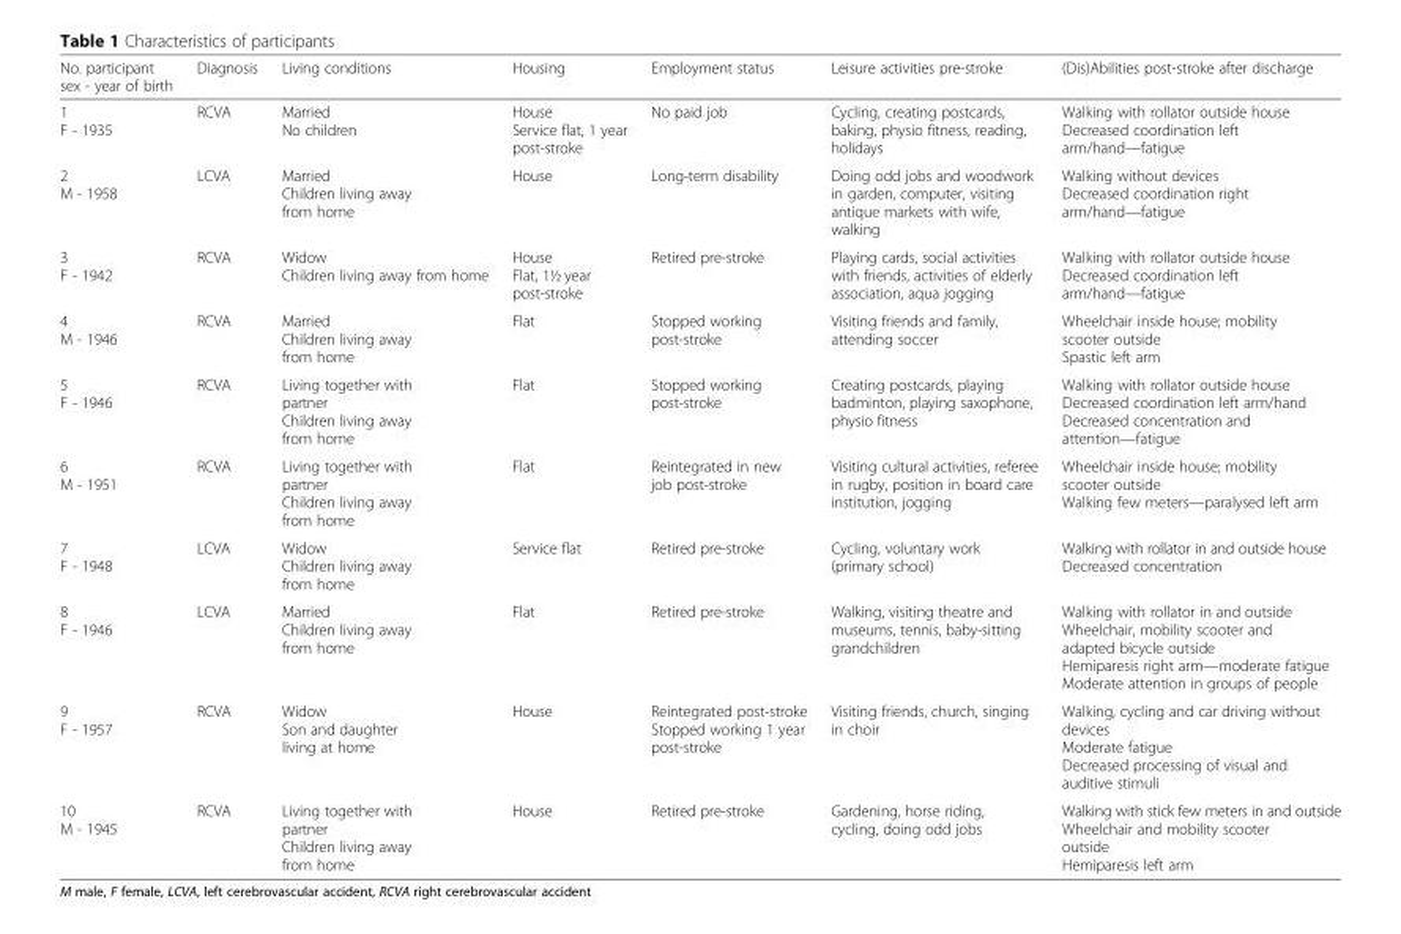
<table><thead><tr><td>No. participant sex - year of birth</td><td>Diagnosis</td><td>Living conditions</td><td>Housing</td><td>Employment status</td><td>Leisure activities pre-stroke</td><td>(Dis)Abilities post-stroke after discharge</td></tr></thead><tbody><tr><td>1 F - 1935</td><td>RCVA</td><td>Married No children</td><td>House Service flat, 1 year post-stroke</td><td>No paid job</td><td>Cycling, creating postcards, baking, physio fitness, reading, holidays</td><td>Walking with rollator outside house Decreased coordination left arm/hand—fatigue</td></tr><tr><td>2 M - 1958</td><td>LCVA</td><td>Married Children living away from home</td><td>House</td><td>Long-term disability</td><td>Doing odd jobs and woodwork in garden, computer, visiting antique markets with wife, walking</td><td>Walking without devices Decreased coordination right arm/hand—fatigue</td></tr><tr><td>3 F - 1942</td><td>RCVA</td><td>Widow Children living away from home</td><td>House Flat, 1½ year post-stroke</td><td>Retired pre-stroke</td><td>Playing cards, social activities with friends, activities of elderly association, aqua jogging</td><td>Walking with rollator outside house Decreased coordination left arm/hand—fatigue</td></tr><tr><td>4 M - 1946</td><td>RCVA</td><td>Married Children living away from home</td><td>Flat</td><td>Stopped working post-stroke</td><td>Visiting friends and family, attending soccer</td><td>Wheelchair inside house; mobility scooter outside Spastic left arm</td></tr><tr><td>5 F - 1946</td><td>RCVA</td><td>Living together with partner Children living away from home</td><td>Flat</td><td>Stopped working post-stroke</td><td>Creating postcards, playing badminton, playing saxophone, physio fitness</td><td>Walking with rollator outside house Decreased coordination left arm/hand Decreased concentration and attention—fatigue</td></tr><tr><td>6 M - 1951</td><td>RCVA</td><td>Living together with partner Children living away from home</td><td>Flat</td><td>Reintegrated in new job post-stroke</td><td>Visiting cultural activities, referee in rugby, position in board care institution, jogging</td><td>Wheelchair inside house; mobility scooter outside Walking few meters—paralysed left arm</td></tr><tr><td>7 F - 1948</td><td>LCVA</td><td>Widow Children living away from home</td><td>Service flat</td><td>Retired pre-stroke</td><td>Cycling, voluntary work (primary school)</td><td>Walking with rollator in and outside house Decreased concentration</td></tr><tr><td>8 F - 1946</td><td>LCVA</td><td>Married Children living away from home</td><td>Flat</td><td>Retired pre-stroke</td><td>Walking, visiting theatre and museums, tennis, baby-sitting grandchildren</td><td>Walking with rollator in and outside Wheelchair, mobility scooter and adapted bicycle outside Hemiparesis right arm—moderate fatigue Moderate attention in groups of people</td></tr><tr><td>9 F - 1957</td><td>RCVA</td><td>Widow Son and daughter living at home</td><td>House</td><td>Reintegrated post-stroke Stopped working 1 year post-stroke</td><td>Visiting friends, church, singing in choir</td><td>Walking, cycling and car driving without devices Moderate fatigue Decreased processing of visual and auditive stimuli</td></tr><tr><td>10 M - 1945</td><td>RCVA</td><td>Living together with partner Children living away from home</td><td>House</td><td>Retired pre-stroke</td><td>Gardening, horse riding, cycling, doing odd jobs</td><td>Walking with stick few meters in and outside Wheelchair and mobility scooter outside Hemiparesis left arm</td></tr></tbody></table>